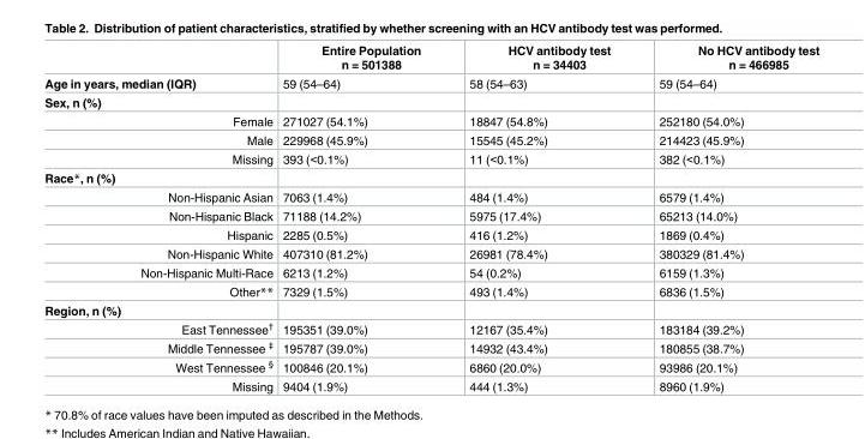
<table><thead><tr><td></td><td>Entire Population n = 501388</td><td>HCV antibody test n = 34403</td><td>No HCV antibody test n = 466985</td></tr></thead><tbody><tr><td>Age in years, median (IQR)</td><td>59 (54–64)</td><td>58 (54–63)</td><td>59 (54–64)</td></tr><tr><td colspan="4">Sex, n (%)</td></tr><tr><td>Female</td><td>271027 (54.1%)</td><td>18847 (54.8%)</td><td>252180 (54.0%)</td></tr><tr><td>Male</td><td>229968 (45.9%)</td><td>15545 (45.2%)</td><td>214423 (45.9%)</td></tr><tr><td>Missing</td><td>393 (&lt;0.1%)</td><td>11 (&lt;0.1%)</td><td>382 (&lt;0.1%)</td></tr><tr><td colspan="4">Race*, n (%)</td></tr><tr><td>Non-Hispanic Asian</td><td>7063 (1.4%)</td><td>484 (1.4%)</td><td>6579 (1.4%)</td></tr><tr><td>Non-Hispanic Black</td><td>71188 (14.2%)</td><td>5975 (17.4%)</td><td>65213 (14.0%)</td></tr><tr><td>Hispanic</td><td>2285 (0.5%)</td><td>416 (1.2%)</td><td>1869 (0.4%)</td></tr><tr><td>Non-Hispanic White</td><td>407310 (81.2%)</td><td>26981 (78.4%)</td><td>380329 (81.4%)</td></tr><tr><td>Non-Hispanic Multi-Race</td><td>6213 (1.2%)</td><td>54 (0.2%)</td><td>6159 (1.3%)</td></tr><tr><td>Other**</td><td>7329 (1.5%)</td><td>493 (1.4%)</td><td>6836 (1.5%)</td></tr><tr><td colspan="4">Region, n (%)</td></tr><tr><td>East Tennessee<sup>†</sup></td><td>195351 (39.0%)</td><td>12167 (35.4%)</td><td>183184 (39.2%)</td></tr><tr><td>Middle Tennessee <sup>‡</sup></td><td>195787 (39.0%)</td><td>14932 (43.4%)</td><td>180855 (38.7%)</td></tr><tr><td>West Tennessee <sup>§</sup></td><td>100846 (20.1%)</td><td>6860 (20.0%)</td><td>93986 (20.1%)</td></tr><tr><td>Missing</td><td>9404 (1.9%)</td><td>444 (1.3%)</td><td>8960 (1.9%)</td></tr></tbody></table>